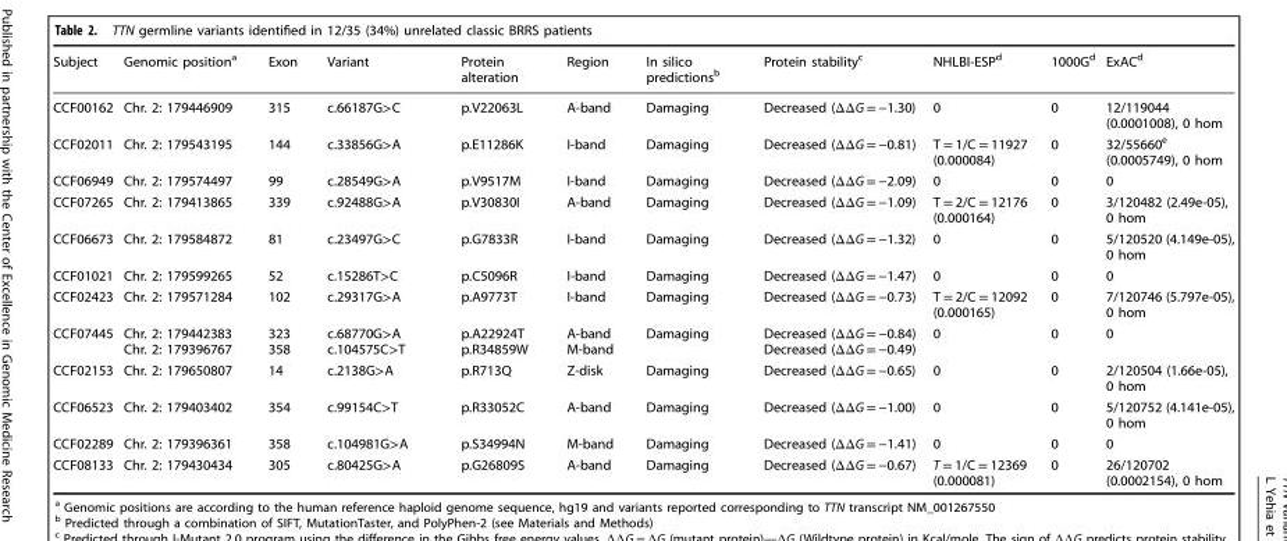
<table><thead><tr><td>Subject</td><td>Genomic position<sup>a</sup></td><td>Exon</td><td>Variant</td><td>Protein alteration</td><td>Region</td><td>In silico predictions<sup>b</sup></td><td>Protein stability<sup>c</sup></td><td>NHLBI-ESP<sup>d</sup></td><td>1000G<sup>d</sup></td><td>ExAC<sup>d</sup></td></tr></thead><tbody><tr><td>CCF00162</td><td>Chr. 2: 179446909</td><td>315</td><td>c.66187G&gt;C</td><td>p.V22063L</td><td>A-band</td><td>Damaging</td><td>Decreased (ΔΔG = −1.30)</td><td>0</td><td>0</td><td>12/119044 (0.0001008), 0 hom</td></tr><tr><td>CCF02011</td><td>Chr. 2: 179543195</td><td>144</td><td>c.33856G&gt;A</td><td>p.E11286K</td><td>I-band</td><td>Damaging</td><td>Decreased (ΔΔG = −0.81)</td><td>T = 1/C = 11927 (0.000084)</td><td>0</td><td>32/55660<sup>e</sup> (0.0005749), 0 hom</td></tr><tr><td>CCF06949</td><td>Chr. 2: 179574497</td><td>99</td><td>c.28549G&gt;A</td><td>p.V9517M</td><td>I-band</td><td>Damaging</td><td>Decreased (ΔΔG = −2.09)</td><td>0</td><td>0</td><td>0</td></tr><tr><td>CCF07265</td><td>Chr. 2: 179413865</td><td>339</td><td>c.92488G&gt;A</td><td>p.V30830I</td><td>A-band</td><td>Damaging</td><td>Decreased (ΔΔG = −1.09)</td><td>T = 2/C = 12176 (0.000164)</td><td>0</td><td>3/120482 (2.49e-05), 0 hom</td></tr><tr><td>CCF06673</td><td>Chr. 2: 179584872</td><td>81</td><td>c.23497G&gt;C</td><td>p.G7833R</td><td>I-band</td><td>Damaging</td><td>Decreased (ΔΔG = −1.32)</td><td>0</td><td>0</td><td>5/120520 (4.149e-05), 0 hom</td></tr><tr><td>CCF01021</td><td>Chr. 2: 179599265</td><td>52</td><td>c.15286T&gt;C</td><td>p.C5096R</td><td>I-band</td><td>Damaging</td><td>Decreased (ΔΔG = −1.47)</td><td>0</td><td>0</td><td>0</td></tr><tr><td>CCF02423</td><td>Chr. 2: 179571284</td><td>102</td><td>c.29317G&gt;A</td><td>p.A9773T</td><td>I-band</td><td>Damaging</td><td>Decreased (ΔΔG = −0.73)</td><td>T = 2/C = 12092 (0.000165)</td><td>0</td><td>7/120746 (5.797e-05), 0 hom</td></tr><tr><td>CCF07445</td><td>Chr. 2: 179442383 Chr. 2: 179396767</td><td>323 358</td><td>c.68770G&gt;A c.104575C&gt;T</td><td>p.A22924T p.R34859W</td><td>A-band M-band</td><td>Damaging</td><td>Decreased (ΔΔG = −0.84) Decreased (ΔΔG = −0.49)</td><td>0</td><td>0</td><td>0</td></tr><tr><td>CCF02153</td><td>Chr. 2: 179650807</td><td>14</td><td>c.2138G&gt;A</td><td>p.R713Q</td><td>Z-disk</td><td>Damaging</td><td>Decreased (ΔΔG = −0.65)</td><td>0</td><td>0</td><td>2/120504 (1.66e-05), 0 hom</td></tr><tr><td>CCF06523</td><td>Chr. 2: 179403402</td><td>354</td><td>c.99154C&gt;T</td><td>p.R33052C</td><td>A-band</td><td>Damaging</td><td>Decreased (ΔΔG = −1.00)</td><td>0</td><td>0</td><td>5/120752 (4.141e-05), 0 hom</td></tr><tr><td>CCF02289</td><td>Chr. 2: 179396361</td><td>358</td><td>c.104981G&gt;A</td><td>p.S34994N</td><td>M-band</td><td>Damaging</td><td>Decreased (ΔΔG = −1.41)</td><td>0</td><td>0</td><td>0</td></tr><tr><td>CCF08133</td><td>Chr. 2: 179430434</td><td>305</td><td>c.80425G&gt;A</td><td>p.G26809S</td><td>A-band</td><td>Damaging</td><td>Decreased (ΔΔG = −0.67)</td><td>T = 1/C = 12369 (0.000081)</td><td>0</td><td>26/120702 (0.0002154), 0 hom</td></tr></tbody></table>